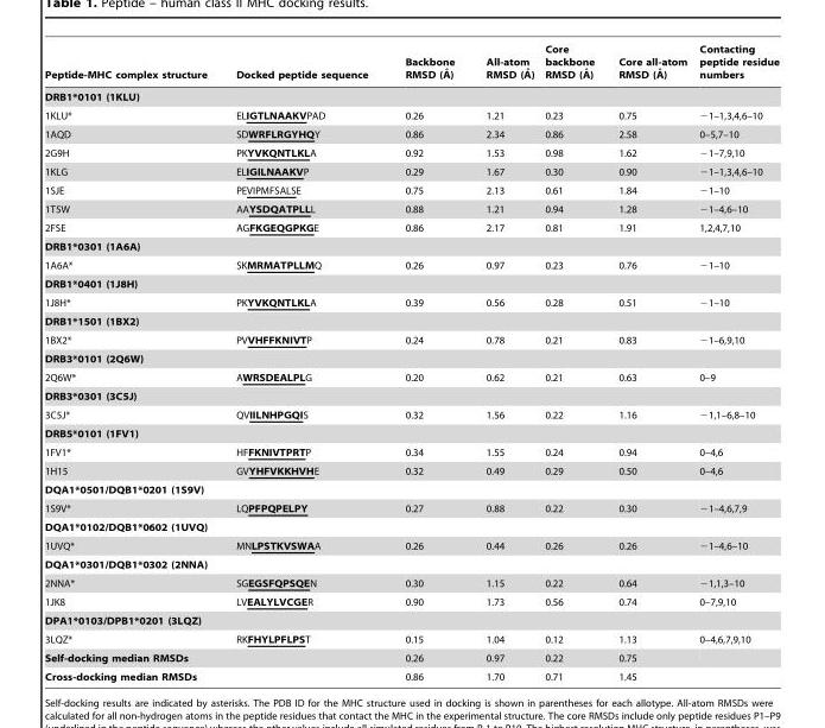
<table><thead><tr><td>Peptide-MHC complex structure</td><td>Docked peptide sequence</td><td>Backbone RMSD (A˚ )</td><td>All-atom RMSD (A˚ )</td><td>Core backbone RMSD (A˚ )</td><td>Core all-atom RMSD (A˚ )</td><td>Contacting peptide residue numbers</td></tr></thead><tbody><tr><td colspan="7">DRB1*0101 (1KLU)</td></tr><tr><td>1KLU*</td><td>ELIGTLNAAKVPAD</td><td>0.26</td><td>1.21</td><td>0.23</td><td>0.75</td><td>−1–1,3,4,6–10</td></tr><tr><td>1AQD</td><td>SDWRFLRGYHQY</td><td>0.86</td><td>2.34</td><td>0.86</td><td>2.58</td><td>0–5,7–10</td></tr><tr><td>2G9H</td><td>PKYVKQNTLKLA</td><td>0.92</td><td>1.53</td><td>0.98</td><td>1.62</td><td>−1–7,9,10</td></tr><tr><td>1KLG</td><td>ELIGILNAAKVP</td><td>0.29</td><td>1.67</td><td>0.30</td><td>0.90</td><td>−1–1,3,4,6–10</td></tr><tr><td>1SJE</td><td>PEVIPMFSALSE</td><td>0.75</td><td>2.13</td><td>0.61</td><td>1.84</td><td>−1–10</td></tr><tr><td>1T5W</td><td>AAYSDQATPLLL</td><td>0.88</td><td>1.21</td><td>0.94</td><td>1.28</td><td>−1–4,6–10</td></tr><tr><td>2FSE</td><td>AGFKGEQGPKGE</td><td>0.86</td><td>2.17</td><td>0.81</td><td>1.91</td><td>1,2,4,7,10</td></tr><tr><td colspan="7">DRB1*0301 (1A6A)</td></tr><tr><td>1A6A*</td><td>SKMRMATPLLMQ</td><td>0.26</td><td>0.97</td><td>0.23</td><td>0.76</td><td>−1–10</td></tr><tr><td colspan="7">DRB1*0401 (1J8H)</td></tr><tr><td>1J8H*</td><td>PKYVKQNTLKLA</td><td>0.39</td><td>0.56</td><td>0.28</td><td>0.51</td><td>−1–10</td></tr><tr><td colspan="7">DRB1*1501 (1BX2)</td></tr><tr><td>1BX2*</td><td>PVVHFFKNIVTP</td><td>0.24</td><td>0.78</td><td>0.21</td><td>0.83</td><td>−1–6,9,10</td></tr><tr><td colspan="7">DRB3*0101 (2Q6W)</td></tr><tr><td>2Q6W*</td><td>AWRSDEALPLG</td><td>0.20</td><td>0.62</td><td>0.21</td><td>0.63</td><td>0–9</td></tr><tr><td colspan="7">DRB3*0301 (3C5J)</td></tr><tr><td>3C5J*</td><td>QVIILNHPGQIS</td><td>0.32</td><td>1.56</td><td>0.22</td><td>1.16</td><td>−1,1–6,8–10</td></tr><tr><td colspan="7">DRB5*0101 (1FV1)</td></tr><tr><td>1FV1*</td><td>HFFKNIVTPRTP</td><td>0.34</td><td>1.55</td><td>0.24</td><td>0.94</td><td>0–4,6</td></tr><tr><td>1H15</td><td>GVYHFVKKHVHE</td><td>0.32</td><td>0.49</td><td>0.29</td><td>0.50</td><td>0–4,6</td></tr><tr><td colspan="7">DQA1*0501/DQB1*0201 (1S9V)</td></tr><tr><td>1S9V*</td><td>LQPFPQPELPY</td><td>0.27</td><td>0.88</td><td>0.22</td><td>0.30</td><td>−1–4,6,7,9</td></tr><tr><td colspan="7">DQA1*0102/DQB1*0602 (1UVQ)</td></tr><tr><td>1UVQ*</td><td>MNLPSTKVSWAA</td><td>0.26</td><td>0.44</td><td>0.26</td><td>0.26</td><td>−1–4,6–10</td></tr><tr><td colspan="7">DQA1*0301/DQB1*0302 (2NNA)</td></tr><tr><td>2NNA*</td><td>SGEGSFQPSQEN</td><td>0.30</td><td>1.15</td><td>0.22</td><td>0.64</td><td>−1,1,3–10</td></tr><tr><td>1JK8</td><td>LVEALYLVCGER</td><td>0.90</td><td>1.73</td><td>0.56</td><td>0.74</td><td>0–7,9,10</td></tr><tr><td colspan="7">DPA1*0103/DPB1*0201 (3LQZ)</td></tr><tr><td>3LQZ*</td><td>RKFHYLPFLPST</td><td>0.15</td><td>1.04</td><td>0.12</td><td>1.13</td><td>0–4,6,7,9,10</td></tr><tr><td colspan="2">Self-docking median RMSDs</td><td>0.26</td><td>0.97</td><td>0.22</td><td>0.75</td><td></td></tr><tr><td colspan="2">Cross-docking median RMSDs</td><td>0.86</td><td>1.70</td><td>0.71</td><td>1.45</td><td></td></tr></tbody></table>